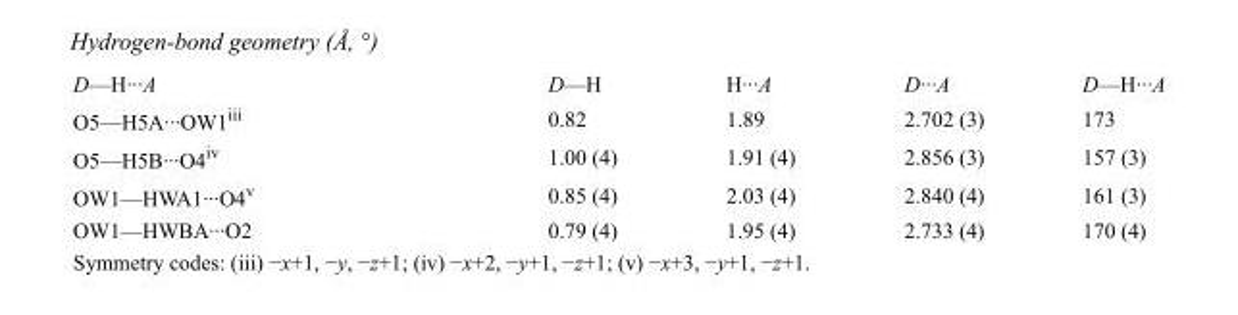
<table><tbody><tr><td>D—H···A</td><td>D—H</td><td>H···A</td><td>D···A</td><td>D—H···A</td></tr><tr><td>O5—H5A···OW1<sup>iii</sup></td><td>0.82</td><td>1.89</td><td>2.702 (3)</td><td>173</td></tr><tr><td>O5—H5B···O4<sup>iv</sup></td><td>1.00 (4)</td><td>1.91 (4)</td><td>2.856 (3)</td><td>157 (3)</td></tr><tr><td>OW1—HWA1···O4<sup>v</sup></td><td>0.85 (4)</td><td>2.03 (4)</td><td>2.840 (4)</td><td>161 (3)</td></tr><tr><td>OW1—HWBA···O2</td><td>0.79 (4)</td><td>1.95 (4)</td><td>2.733 (4)</td><td>170 (4)</td></tr></tbody></table>